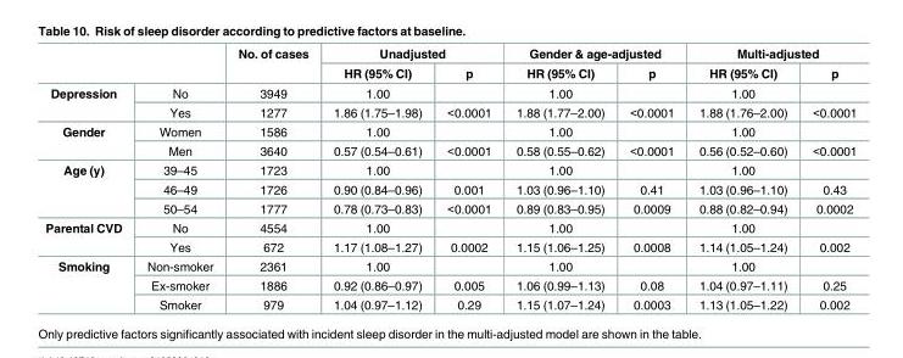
<table><thead><tr><td rowspan="2"></td><td rowspan="2"></td><td rowspan="2">No. of cases</td><td colspan="2">Unadjusted</td><td colspan="2">Gender &amp; age-adjusted</td><td colspan="2">Multi-adjusted</td></tr><tr><td>HR (95% CI)</td><td>p</td><td>HR (95% CI)</td><td>p</td><td>HR (95% CI)</td><td>p</td></tr></thead><tbody><tr><td rowspan="2">Depression</td><td>No</td><td>3949</td><td>1.00</td><td></td><td>1.00</td><td></td><td>1.00</td><td></td></tr><tr><td>Yes</td><td>1277</td><td>1.86 (1.75–1.98)</td><td>&lt;0.0001</td><td>1.88 (1.77–2.00)</td><td>&lt;0.0001</td><td>1.88 (1.76–2.00)</td><td>&lt;0.0001</td></tr><tr><td rowspan="2">Gender</td><td>Women</td><td>1586</td><td>1.00</td><td></td><td>1.00</td><td></td><td>1.00</td><td></td></tr><tr><td>Men</td><td>3640</td><td>0.57 (0.54–0.61)</td><td>&lt;0.0001</td><td>0.58 (0.55–0.62)</td><td>&lt;0.0001</td><td>0.56 (0.52–0.60)</td><td>&lt;0.0001</td></tr><tr><td rowspan="3">Age (y)</td><td>39–45</td><td>1723</td><td>1.00</td><td></td><td>1.00</td><td></td><td>1.00</td><td></td></tr><tr><td>46–49</td><td>1726</td><td>0.90 (0.84–0.96)</td><td>0.001</td><td>1.03 (0.96–1.10)</td><td>0.41</td><td>1.03 (0.96–1.10)</td><td>0.43</td></tr><tr><td>50–54</td><td>1777</td><td>0.78 (0.73–0.83)</td><td>&lt;0.0001</td><td>0.89 (0.83–0.95)</td><td>0.0009</td><td>0.88 (0.82–0.94)</td><td>0.0002</td></tr><tr><td rowspan="2">Parental CVD</td><td>No</td><td>4554</td><td>1.00</td><td></td><td>1.00</td><td></td><td>1.00</td><td></td></tr><tr><td>Yes</td><td>672</td><td>1.17 (1.08–1.27)</td><td>0.0002</td><td>1.15 (1.06–1.25)</td><td>0.0008</td><td>1.14 (1.05–1.24)</td><td>0.002</td></tr><tr><td rowspan="3">Smoking</td><td>Non-smoker</td><td>2361</td><td>1.00</td><td></td><td>1.00</td><td></td><td>1.00</td><td></td></tr><tr><td>Ex-smoker</td><td>1886</td><td>0.92 (0.86–0.97)</td><td>0.005</td><td>1.06 (0.99–1.13)</td><td>0.08</td><td>1.04 (0.97–1.11)</td><td>0.25</td></tr><tr><td>Smoker</td><td>979</td><td>1.04 (0.97–1.12)</td><td>0.29</td><td>1.15 (1.07–1.24)</td><td>0.0003</td><td>1.13 (1.05–1.22)</td><td>0.002</td></tr></tbody></table>